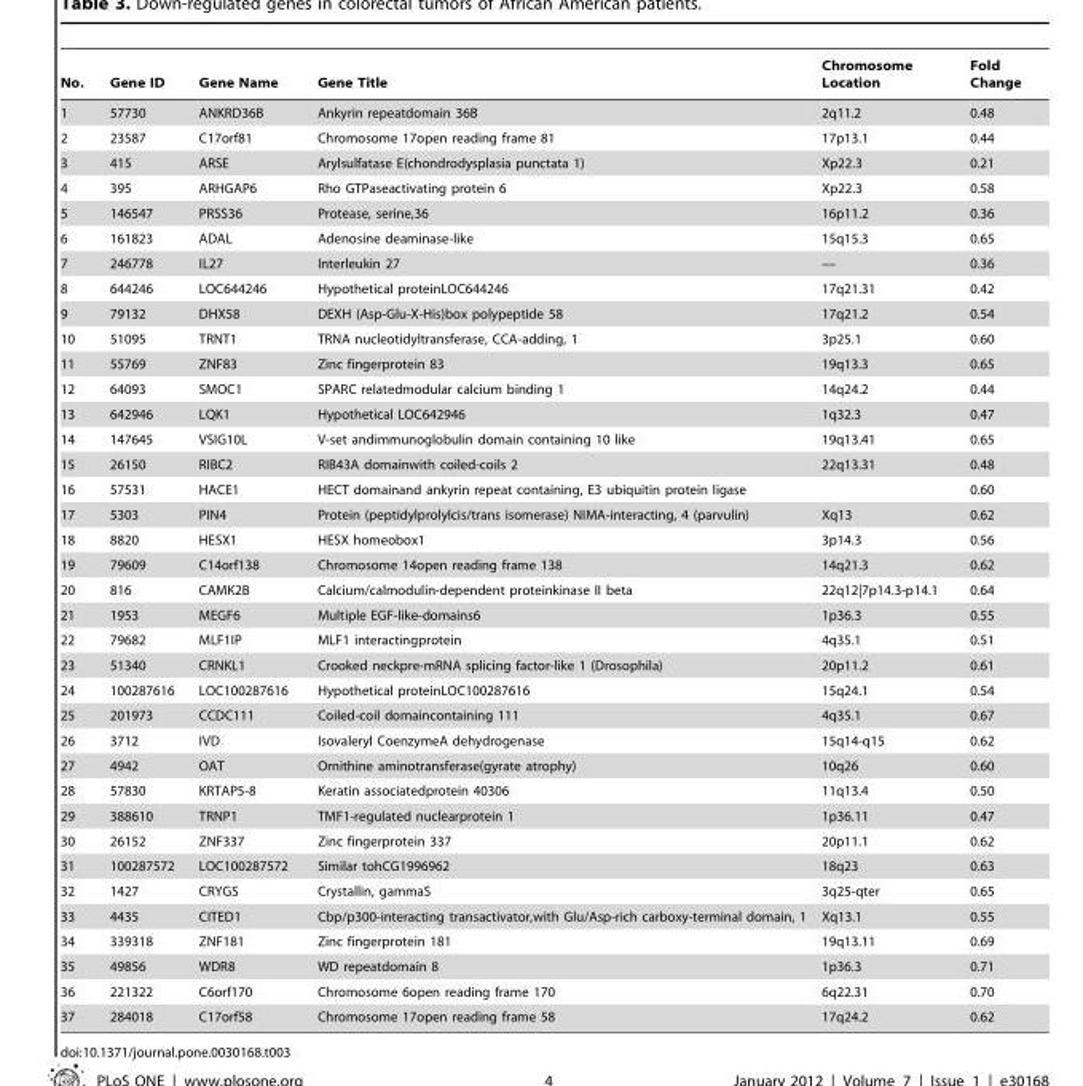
<table><thead><tr><td>No.</td><td>Gene ID</td><td>Gene Name</td><td>Gene Title</td><td>Chromosome Location</td><td>Fold Change</td></tr></thead><tbody><tr><td>1</td><td>57730</td><td>ANKRD36B</td><td>Ankyrin repeatdomain 36B</td><td>2q11.2</td><td>0.48</td></tr><tr><td>2</td><td>23587</td><td>C17orf81</td><td>Chromosome 17open reading frame 81</td><td>17p13.1</td><td>0.44</td></tr><tr><td>3</td><td>415</td><td>ARSE</td><td>Arylsulfatase E(chondrodysplasia punctata 1)</td><td>Xp22.3</td><td>0.21</td></tr><tr><td>4</td><td>395</td><td>ARHGAP6</td><td>Rho GTPaseactivating protein 6</td><td>Xp22.3</td><td>0.58</td></tr><tr><td>5</td><td>146547</td><td>PRSS36</td><td>Protease, serine,36</td><td>16p11.2</td><td>0.36</td></tr><tr><td>6</td><td>161823</td><td>ADAL</td><td>Adenosine deaminase-like</td><td>15q15.3</td><td>0.65</td></tr><tr><td>7</td><td>246778</td><td>IL27</td><td>Interleukin 27</td><td>—</td><td>0.36</td></tr><tr><td>8</td><td>644246</td><td>LOC644246</td><td>Hypothetical proteinLOC644246</td><td>17q21.31</td><td>0.42</td></tr><tr><td>9</td><td>79132</td><td>DHX58</td><td>DEXH (Asp-Glu-X-His)box polypeptide 58</td><td>17q21.2</td><td>0.54</td></tr><tr><td>10</td><td>51095</td><td>TRNT1</td><td>TRNA nucleotidyltransferase, CCA-adding, 1</td><td>3p25.1</td><td>0.60</td></tr><tr><td>11</td><td>55769</td><td>ZNF83</td><td>Zinc fingerprotein 83</td><td>19q13.3</td><td>0.65</td></tr><tr><td>12</td><td>64093</td><td>SMOC1</td><td>SPARC relatedmodular calcium binding 1</td><td>14q24.2</td><td>0.44</td></tr><tr><td>13</td><td>642946</td><td>LQK1</td><td>Hypothetical LOC642946</td><td>1q32.3</td><td>0.47</td></tr><tr><td>14</td><td>147645</td><td>VSIG10L</td><td>V-set andimmunoglobulin domain containing 10 like</td><td>19q13.41</td><td>0.65</td></tr><tr><td>15</td><td>26150</td><td>RIBC2</td><td>RIB43A domainwith coiled-coils 2</td><td>22q13.31</td><td>0.48</td></tr><tr><td>16</td><td>57531</td><td>HACE1</td><td>HECT domainand ankyrin repeat containing, E3 ubiquitin protein ligase</td><td></td><td>0.60</td></tr><tr><td>17</td><td>5303</td><td>PIN4</td><td>Protein (peptidylprolylcis/trans isomerase) NIMA-interacting, 4 (parvulin)</td><td>Xq13</td><td>0.62</td></tr><tr><td>18</td><td>8820</td><td>HESX1</td><td>HESX homeobox1</td><td>3p14.3</td><td>0.56</td></tr><tr><td>19</td><td>79609</td><td>C14orf138</td><td>Chromosome 14open reading frame 138</td><td>14q21.3</td><td>0.62</td></tr><tr><td>20</td><td>816</td><td>CAMK2B</td><td>Calcium/calmodulin-dependent proteinkinase II beta</td><td>22q12|7p14.3-p14.1</td><td>0.64</td></tr><tr><td>21</td><td>1953</td><td>MEGF6</td><td>Multiple EGF-like-domains6</td><td>1p36.3</td><td>0.55</td></tr><tr><td>22</td><td>79682</td><td>MLF1IP</td><td>MLF1 interactingprotein</td><td>4q35.1</td><td>0.51</td></tr><tr><td>23</td><td>51340</td><td>CRNKL1</td><td>Crooked neckpre-mRNA splicing factor-like 1 (Drosophila)</td><td>20p11.2</td><td>0.61</td></tr><tr><td>24</td><td>100287616</td><td>LOC100287616</td><td>Hypothetical proteinLOC100287616</td><td>15q24.1</td><td>0.54</td></tr><tr><td>25</td><td>201973</td><td>CCDC111</td><td>Coiled-coil domaincontaining 111</td><td>4q35.1</td><td>0.67</td></tr><tr><td>26</td><td>3712</td><td>IVD</td><td>Isovaleryl CoenzymeA dehydrogenase</td><td>15q14-q15</td><td>0.62</td></tr><tr><td>27</td><td>4942</td><td>OAT</td><td>Ornithine aminotransferase(gyrate atrophy)</td><td>10q26</td><td>0.60</td></tr><tr><td>28</td><td>57830</td><td>KRTAP5-8</td><td>Keratin associatedprotein 40306</td><td>11q13.4</td><td>0.50</td></tr><tr><td>29</td><td>388610</td><td>TRNP1</td><td>TMF1-regulated nuclearprotein 1</td><td>1p36.11</td><td>0.47</td></tr><tr><td>30</td><td>26152</td><td>ZNF337</td><td>Zinc fingerprotein 337</td><td>20p11.1</td><td>0.62</td></tr><tr><td>31</td><td>100287572</td><td>LOC100287572</td><td>Similar tohCG1996962</td><td>18q23</td><td>0.63</td></tr><tr><td>32</td><td>1427</td><td>CRYGS</td><td>Crystallin, gammaS</td><td>3q25-qter</td><td>0.65</td></tr><tr><td>33</td><td>4435</td><td>CITED1</td><td>Cbp/p300-interacting transactivator,with Glu/Asp-rich carboxy-terminal domain, 1</td><td>Xq13.1</td><td>0.55</td></tr><tr><td>34</td><td>339318</td><td>ZNF181</td><td>Zinc fingerprotein 181</td><td>19q13.11</td><td>0.69</td></tr><tr><td>35</td><td>49856</td><td>WDR8</td><td>WD repeatdomain 8</td><td>1p36.3</td><td>0.71</td></tr><tr><td>36</td><td>221322</td><td>C6orf170</td><td>Chromosome 6open reading frame 170</td><td>6q22.31</td><td>0.70</td></tr><tr><td>37</td><td>284018</td><td>C17orf58</td><td>Chromosome 17open reading frame 58</td><td>17q24.2</td><td>0.62</td></tr></tbody></table>